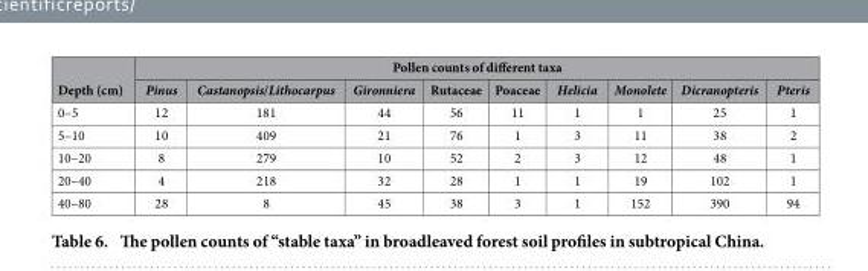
<table><thead><tr><td rowspan="2">Depth (cm)</td><td colspan="9">Pollen counts of different taxa</td></tr><tr><td>Pinus</td><td>Castanopsis/Lithocarpus</td><td>Gironniera</td><td>Rutaceae</td><td>Poaceae</td><td>Helicia</td><td>Monolete</td><td>Dicranopteris</td><td>Pteris</td></tr></thead><tbody><tr><td>0–5</td><td>12</td><td>181</td><td>44</td><td>56</td><td>11</td><td>1</td><td>1</td><td>25</td><td>1</td></tr><tr><td>5–10</td><td>10</td><td>409</td><td>21</td><td>76</td><td>1</td><td>3</td><td>11</td><td>38</td><td>2</td></tr><tr><td>10–20</td><td>8</td><td>279</td><td>10</td><td>52</td><td>2</td><td>3</td><td>12</td><td>48</td><td>1</td></tr><tr><td>20–40</td><td>4</td><td>218</td><td>32</td><td>28</td><td>1</td><td>1</td><td>19</td><td>102</td><td>1</td></tr><tr><td>40–80</td><td>28</td><td>8</td><td>45</td><td>38</td><td>3</td><td>1</td><td>152</td><td>390</td><td>94</td></tr></tbody></table>